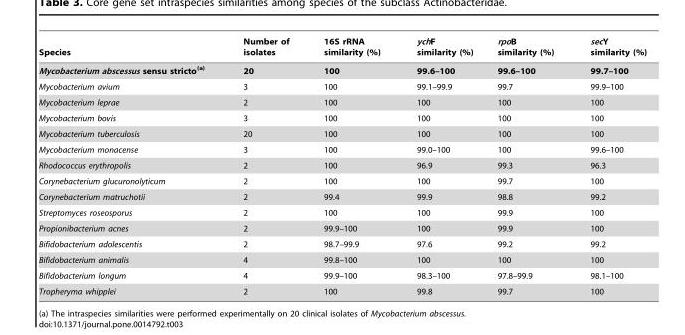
<table><thead><tr><td>Species</td><td>Number of isolates</td><td>16S rRNA similarity (%)</td><td>ychF similarity (%)</td><td>rpoB similarity (%)</td><td>secY similarity (%)</td></tr></thead><tbody><tr><td>Mycobacterium abscessus sensu stricto<sup>(a)</sup></td><td>20</td><td>100</td><td>99.6–100</td><td>99.6–100</td><td>99.7–100</td></tr><tr><td>Mycobacterium avium</td><td>3</td><td>100</td><td>99.1–99.9</td><td>99.7</td><td>99.9–100</td></tr><tr><td>Mycobacterium leprae</td><td>2</td><td>100</td><td>100</td><td>100</td><td>100</td></tr><tr><td>Mycobacterium bovis</td><td>3</td><td>100</td><td>100</td><td>100</td><td>100</td></tr><tr><td>Mycobacterium tuberculosis</td><td>20</td><td>100</td><td>100</td><td>100</td><td>100</td></tr><tr><td>Mycobacterium monacense</td><td>3</td><td>100</td><td>99.0–100</td><td>100</td><td>99.6–100</td></tr><tr><td>Rhodococcus erythropolis</td><td>2</td><td>100</td><td>96.9</td><td>99.3</td><td>96.3</td></tr><tr><td>Corynebacterium glucuronolyticum</td><td>2</td><td>100</td><td>100</td><td>99.7</td><td>100</td></tr><tr><td>Corynebacterium matruchotii</td><td>2</td><td>99.4</td><td>99.9</td><td>98.8</td><td>99.2</td></tr><tr><td>Streptomyces roseosporus</td><td>2</td><td>100</td><td>100</td><td>99.9</td><td>100</td></tr><tr><td>Propionibacterium acnes</td><td>2</td><td>99.9–100</td><td>100</td><td>99.9</td><td>100</td></tr><tr><td>Bifidobacterium adolescentis</td><td>2</td><td>98.7–99.9</td><td>97.6</td><td>99.2</td><td>99.2</td></tr><tr><td>Bifidobacterium animalis</td><td>4</td><td>99.8–100</td><td>100</td><td>100</td><td>100</td></tr><tr><td>Bifidobacterium longum</td><td>4</td><td>99.9–100</td><td>98.3–100</td><td>97.8–99.9</td><td>98.1–100</td></tr><tr><td>Tropheryma whipplei</td><td>2</td><td>100</td><td>99.8</td><td>99.7</td><td>100</td></tr></tbody></table>